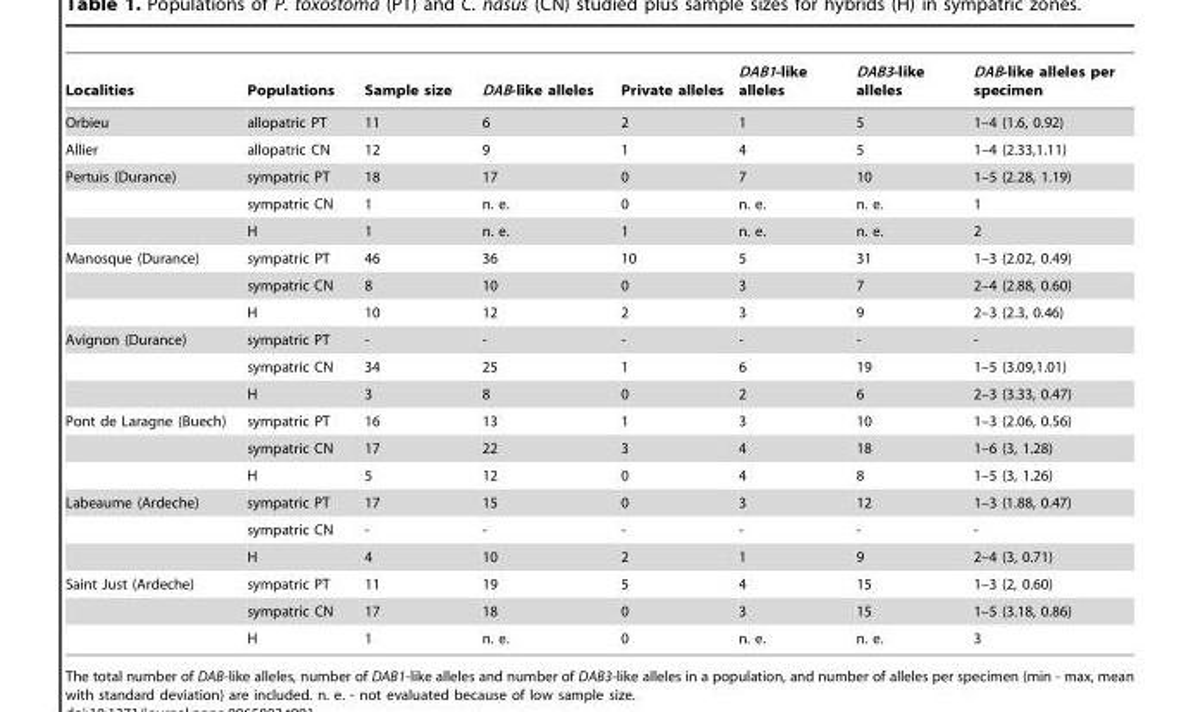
<table><thead><tr><td>Localities</td><td>Populations</td><td>Sample size</td><td>DAB-like alleles</td><td>Private alleles</td><td>DAB1-like alleles</td><td>DAB3-like alleles</td><td>DAB-like alleles per specimen</td></tr></thead><tbody><tr><td>Orbieu</td><td>allopatric PT</td><td>11</td><td>6</td><td>2</td><td>1</td><td>5</td><td>1–4 (1.6, 0.92)</td></tr><tr><td>Allier</td><td>allopatric CN</td><td>12</td><td>9</td><td>1</td><td>4</td><td>5</td><td>1–4 (2.33,1.11)</td></tr><tr><td rowspan="3">Pertuis (Durance)</td><td>sympatric PT</td><td>18</td><td>17</td><td>0</td><td>7</td><td>10</td><td>1–5 (2.28, 1.19)</td></tr><tr><td>sympatric CN</td><td>1</td><td>n. e.</td><td>0</td><td>n. e.</td><td>n. e.</td><td>1</td></tr><tr><td>H</td><td>1</td><td>n. e.</td><td>1</td><td>n. e.</td><td>n. e.</td><td>2</td></tr><tr><td rowspan="3">Manosque (Durance)</td><td>sympatric PT</td><td>46</td><td>36</td><td>10</td><td>5</td><td>31</td><td>1–3 (2.02, 0.49)</td></tr><tr><td>sympatric CN</td><td>8</td><td>10</td><td>0</td><td>3</td><td>7</td><td>2–4 (2.88, 0.60)</td></tr><tr><td>H</td><td>10</td><td>12</td><td>2</td><td>3</td><td>9</td><td>2–3 (2.3, 0.46)</td></tr><tr><td rowspan="3">Avignon (Durance)</td><td>sympatric PT</td><td>-</td><td>-</td><td>-</td><td>-</td><td>-</td><td>-</td></tr><tr><td>sympatric CN</td><td>34</td><td>25</td><td>1</td><td>6</td><td>19</td><td>1–5 (3.09,1.01)</td></tr><tr><td>H</td><td>3</td><td>8</td><td>0</td><td>2</td><td>6</td><td>2–3 (3.33, 0.47)</td></tr><tr><td rowspan="3">Pont de Laragne (Buech)</td><td>sympatric PT</td><td>16</td><td>13</td><td>1</td><td>3</td><td>10</td><td>1–3 (2.06, 0.56)</td></tr><tr><td>sympatric CN</td><td>17</td><td>22</td><td>3</td><td>4</td><td>18</td><td>1–6 (3, 1.28)</td></tr><tr><td>H</td><td>5</td><td>12</td><td>0</td><td>4</td><td>8</td><td>1–5 (3, 1.26)</td></tr><tr><td rowspan="3">Labeaume (Ardeche)</td><td>sympatric PT</td><td>17</td><td>15</td><td>0</td><td>3</td><td>12</td><td>1–3 (1.88, 0.47)</td></tr><tr><td>sympatric CN</td><td>-</td><td>-</td><td>-</td><td>-</td><td>-</td><td>-</td></tr><tr><td>H</td><td>4</td><td>10</td><td>2</td><td>1</td><td>9</td><td>2–4 (3, 0.71)</td></tr><tr><td rowspan="3">Saint Just (Ardeche)</td><td>sympatric PT</td><td>11</td><td>19</td><td>5</td><td>4</td><td>15</td><td>1–3 (2, 0.60)</td></tr><tr><td>sympatric CN</td><td>17</td><td>18</td><td>0</td><td>3</td><td>15</td><td>1–5 (3.18, 0.86)</td></tr><tr><td>H</td><td>1</td><td>n. e.</td><td>0</td><td>n. e.</td><td>n. e.</td><td>3</td></tr></tbody></table>